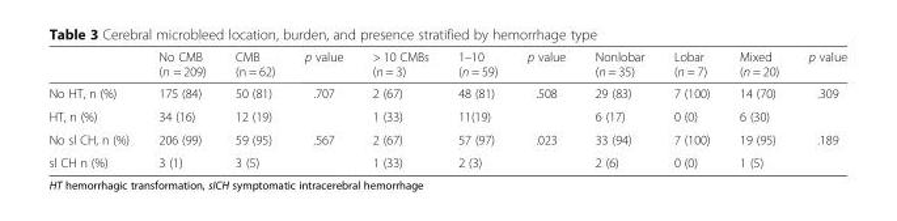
<table><thead><tr><td></td><td>No CMB (n = 209)</td><td>CMB (n = 62)</td><td>p value</td><td>&gt; 10 CMBs (n = 3)</td><td>1–10 (n = 59)</td><td>p value</td><td>Nonlobar (n = 35)</td><td>Lobar (n = 7)</td><td>Mixed (n = 20)</td><td>p value</td></tr></thead><tbody><tr><td>No HT, n (%)</td><td>175 (84)</td><td>50 (81)</td><td rowspan="2">.707</td><td>2 (67)</td><td>48 (81)</td><td rowspan="2">.508</td><td>29 (83)</td><td>7 (100)</td><td>14 (70)</td><td rowspan="2">.309</td></tr><tr><td>HT, n (%)</td><td>34 (16)</td><td>12 (19)</td><td>1 (33)</td><td>11(19)</td><td>6 (17)</td><td>0 (0)</td><td>6 (30)</td></tr><tr><td>No sl CH, n (%)</td><td>206 (99)</td><td>59 (95)</td><td rowspan="2">.567</td><td>2 (67)</td><td>57 (97)</td><td rowspan="2">.023</td><td>33 (94)</td><td>7 (100)</td><td>19 (95)</td><td rowspan="2">.189</td></tr><tr><td>sl CH n (%)</td><td>3 (1)</td><td>3 (5)</td><td>1 (33)</td><td>2 (3)</td><td>2 (6)</td><td>0 (0)</td><td>1 (5)</td></tr></tbody></table>